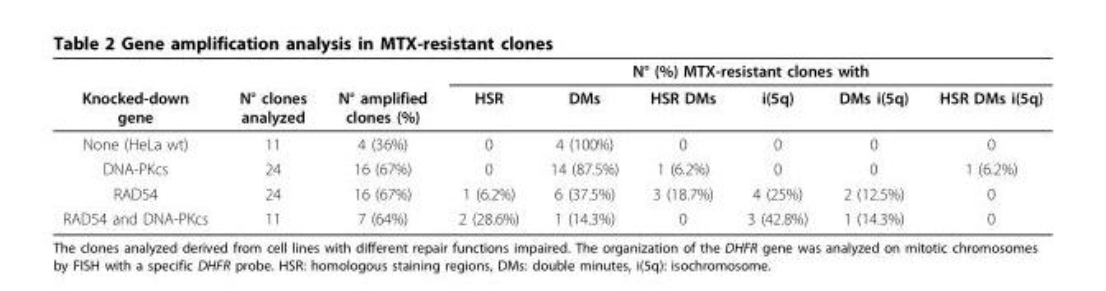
<table><thead><tr><td rowspan="2">Knocked-down gene</td><td rowspan="2">N° clones analyzed</td><td rowspan="2">N° amplified clones (%)</td><td colspan="6">N° (%) MTX-resistant clones with</td></tr><tr><td>HSR</td><td>DMs</td><td>HSR DMs</td><td>i(5q)</td><td>DMs i(5q)</td><td>HSR DMs i(5q)</td></tr></thead><tbody><tr><td>None (HeLa wt)</td><td>11</td><td>4 (36%)</td><td>0</td><td>4 (100%)</td><td>0</td><td>0</td><td>0</td><td>0</td></tr><tr><td>DNA-PKcs</td><td>24</td><td>16 (67%)</td><td>0</td><td>14 (87.5%)</td><td>1 (6.2%)</td><td>0</td><td>0</td><td>1 (6.2%)</td></tr><tr><td>RAD54</td><td>24</td><td>16 (67%)</td><td>1 (6.2%)</td><td>6 (37.5%)</td><td>3 (18.7%)</td><td>4 (25%)</td><td>2 (12.5%)</td><td>0</td></tr><tr><td>RAD54 and DNA-PKcs</td><td>11</td><td>7 (64%)</td><td>2 (28.6%)</td><td>1 (14.3%)</td><td>0</td><td>3 (42.8%)</td><td>1 (14.3%)</td><td>0</td></tr></tbody></table>